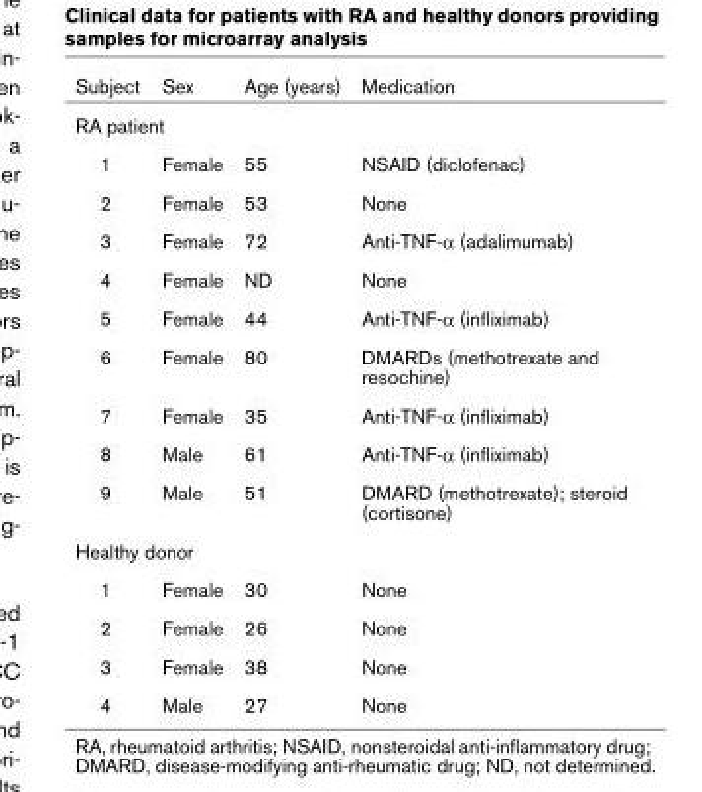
<table><thead><tr><td>Subject</td><td>Sex</td><td>Age (years)</td><td>Medication</td></tr></thead><tbody><tr><td colspan="4">RA patient</td></tr><tr><td>1</td><td>Female</td><td>55</td><td>NSAID (diclofenac)</td></tr><tr><td>2</td><td>Female</td><td>53</td><td>None</td></tr><tr><td>3</td><td>Female</td><td>72</td><td>Anti-TNF-α (adalimumab)</td></tr><tr><td>4</td><td>Female</td><td>ND</td><td>None</td></tr><tr><td>5</td><td>Female</td><td>44</td><td>Anti-TNF-α (infliximab)</td></tr><tr><td>6</td><td>Female</td><td>80</td><td>DMARDs (methotrexate and resochine)</td></tr><tr><td>7</td><td>Female</td><td>35</td><td>Anti-TNF-α (infliximab)</td></tr><tr><td>8</td><td>Male</td><td>61</td><td>Anti-TNF-α (infliximab)</td></tr><tr><td>9</td><td>Male</td><td>51</td><td>DMARD (methotrexate); steroid (cortisone)</td></tr><tr><td colspan="4">Healthy donor</td></tr><tr><td>1</td><td>Female</td><td>30</td><td>None</td></tr><tr><td>2</td><td>Female</td><td>26</td><td>None</td></tr><tr><td>3</td><td>Female</td><td>38</td><td>None</td></tr><tr><td>4</td><td>Male</td><td>27</td><td>None</td></tr></tbody></table>